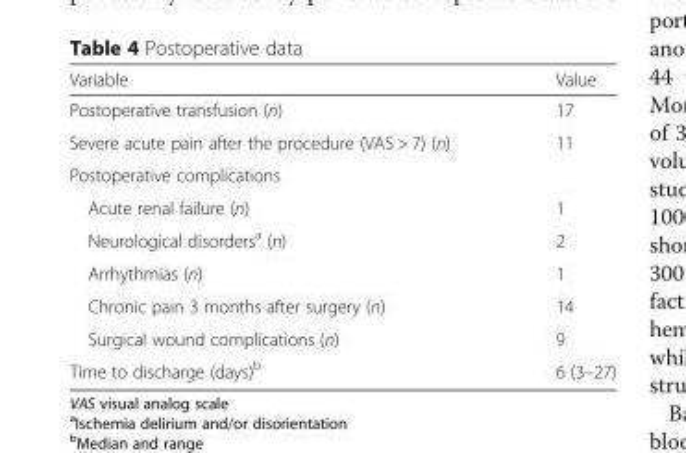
<table><thead><tr><td>Variable</td><td>Value</td></tr></thead><tbody><tr><td>Postoperative transfusion (n)</td><td>17</td></tr><tr><td>Severe acute pain after the procedure (VAS &gt; 7) (n)</td><td>11</td></tr><tr><td colspan="2">Postoperative complications</td></tr><tr><td>Acute renal failure (n)</td><td>1</td></tr><tr><td>Neurological disorders<sup>a</sup> (n)</td><td>2</td></tr><tr><td>Arrhythmias (n)</td><td>1</td></tr><tr><td>Chronic pain 3 months after surgery (n)</td><td>14</td></tr><tr><td>Surgical wound complications (n)</td><td>9</td></tr><tr><td>Time to discharge (days)<sup>b</sup></td><td>6 (3–27)</td></tr></tbody></table>